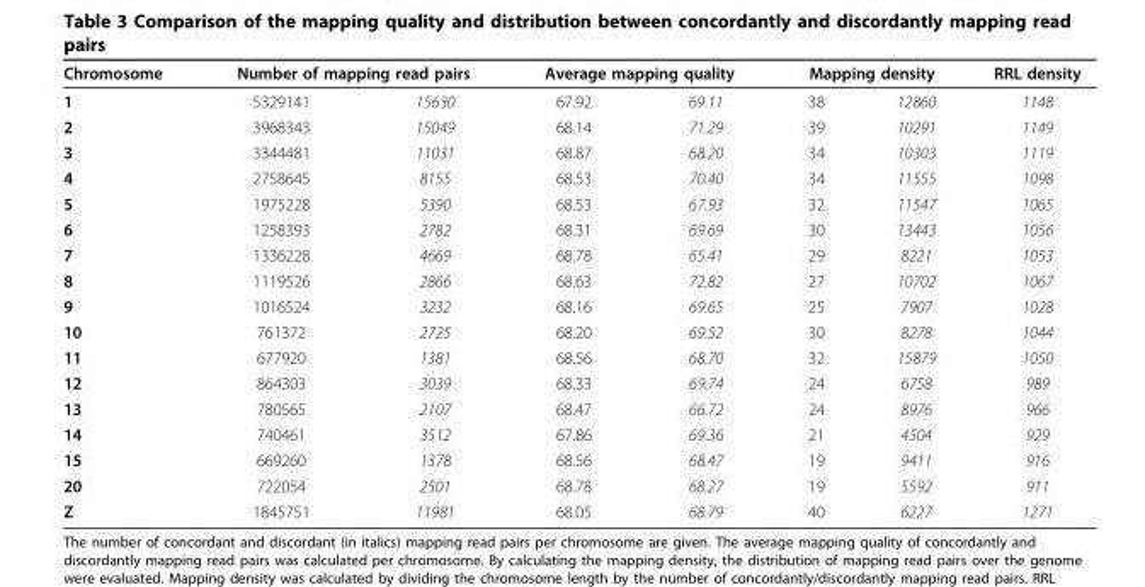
<table><thead><tr><td rowspan="2">Chromosome 1</td><td colspan="2">Number of mapping read pairs</td><td colspan="2">Average mapping quality</td><td colspan="2">Mapping density</td><td rowspan="2">RRL density 1148</td></tr><tr><td>5329141</td><td>15630</td><td>67.92</td><td>69.11</td><td>38</td><td>12860</td></tr></thead><tbody><tr><td>2</td><td>3968343</td><td>15049</td><td>68.14</td><td>71.29</td><td>39</td><td>10291</td><td>1149</td></tr><tr><td>3</td><td>3344481</td><td>11031</td><td>68.87</td><td>68.20</td><td>34</td><td>10303</td><td>1119</td></tr><tr><td>4</td><td>2758645</td><td>8155</td><td>68.53</td><td>70.40</td><td>34</td><td>11555</td><td>1098</td></tr><tr><td>5</td><td>1975228</td><td>5390</td><td>68.53</td><td>67.93</td><td>32</td><td>11547</td><td>1065</td></tr><tr><td>6</td><td>1258393</td><td>2782</td><td>68.31</td><td>69.69</td><td>30</td><td>13443</td><td>1056</td></tr><tr><td>7</td><td>1336228</td><td>4669</td><td>68.78</td><td>65.41</td><td>29</td><td>8221</td><td>1053</td></tr><tr><td>8</td><td>1119526</td><td>2866</td><td>68.63</td><td>72.82</td><td>27</td><td>10702</td><td>1067</td></tr><tr><td>9</td><td>1016524</td><td>3232</td><td>68.16</td><td>69.65</td><td>25</td><td>7907</td><td>1028</td></tr><tr><td>10</td><td>761372</td><td>2725</td><td>68.20</td><td>69.52</td><td>30</td><td>8278</td><td>1044</td></tr><tr><td>11</td><td>677920</td><td>1381</td><td>68.56</td><td>68.70</td><td>32</td><td>15879</td><td>1050</td></tr><tr><td>12</td><td>864303</td><td>3039</td><td>68.33</td><td>69.74</td><td>24</td><td>6758</td><td>989</td></tr><tr><td>13</td><td>780565</td><td>2107</td><td>68.47</td><td>66.72</td><td>24</td><td>8976</td><td>966</td></tr><tr><td>14</td><td>740461</td><td>3512</td><td>67.86</td><td>69.36</td><td>21</td><td>4504</td><td>929</td></tr><tr><td>15</td><td>669260</td><td>1378</td><td>68.56</td><td>68.47</td><td>19</td><td>9411</td><td>916</td></tr><tr><td>20</td><td>722054</td><td>2501</td><td>68.78</td><td>68.27</td><td>19</td><td>5592</td><td>911</td></tr><tr><td>Z</td><td>1845751</td><td>11981</td><td>68.05</td><td>68.79</td><td>40</td><td>6227</td><td>1271</td></tr></tbody></table>